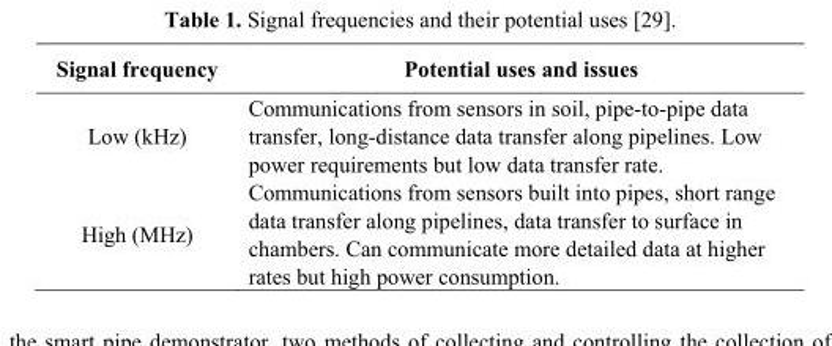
<table><thead><tr><td>Signal frequency</td><td>Potential uses and issues</td></tr></thead><tbody><tr><td>Low (kHz)</td><td>Communications from sensors in soil, pipe-to-pipe data transfer, long-distance data transfer along pipelines. Low power requirements but low data transfer rate.</td></tr><tr><td>High (MHz)</td><td>Communications from sensors built into pipes, short range data transfer along pipelines, data transfer to surface in chambers. Can communicate more detailed data at higher rates but high power consumption.</td></tr></tbody></table>